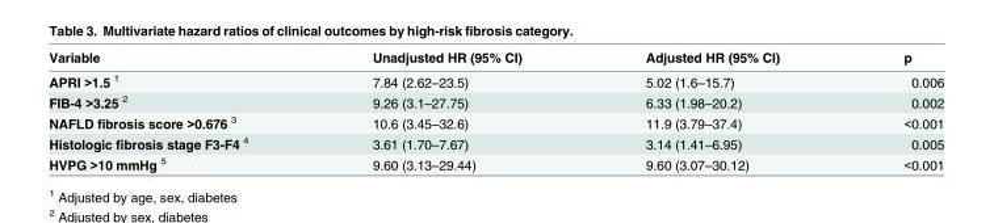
<table><thead><tr><td>Variable</td><td>Unadjusted HR (95% CI)</td><td>Adjusted HR (95% CI)</td><td>p</td></tr></thead><tbody><tr><td>APRI &gt;1.5 <sup>1</sup></td><td>7.84 (2.62–23.5)</td><td>5.02 (1.6–15.7)</td><td>0.006</td></tr><tr><td>FIB-4 &gt;3.25 <sup>2</sup></td><td>9.26 (3.1–27.75)</td><td>6.33 (1.98–20.2)</td><td>0.002</td></tr><tr><td>NAFLD fibrosis score &gt;0.676 <sup>3</sup></td><td>10.6 (3.45–32.6)</td><td>11.9 (3.79–37.4)</td><td>&lt;0.001</td></tr><tr><td>Histologic fibrosis stage F3-F4 <sup>4</sup></td><td>3.61 (1.70–7.67)</td><td>3.14 (1.41–6.95)</td><td>0.005</td></tr><tr><td>HVPG &gt;10 mmHg <sup>5</sup></td><td>9.60 (3.13–29.44)</td><td>9.60 (3.07–30.12)</td><td>&lt;0.001</td></tr></tbody></table>